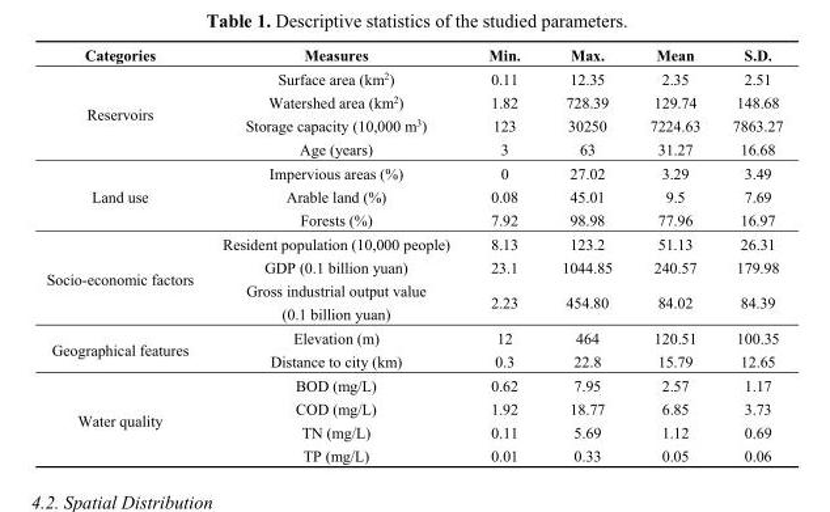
<table><thead><tr><td>Categories</td><td>Measures</td><td>Min.</td><td>Max.</td><td>Mean</td><td>S.D.</td></tr></thead><tbody><tr><td rowspan="4">Reservoirs</td><td>Surface area (km<sup>2</sup>)</td><td>0.11</td><td>12.35</td><td>2.35</td><td>2.51</td></tr><tr><td>Watershed area (km<sup>2</sup>)</td><td>1.82</td><td>728.39</td><td>129.74</td><td>148.68</td></tr><tr><td>Storage capacity (10,000 m<sup>3</sup>)</td><td>123</td><td>30250</td><td>7224.63</td><td>7863.27</td></tr><tr><td>Age (years)</td><td>3</td><td>63</td><td>31.27</td><td>16.68</td></tr><tr><td rowspan="3">Land use</td><td>Impervious areas (%)</td><td>0</td><td>27.02</td><td>3.29</td><td>3.49</td></tr><tr><td>Arable land (%)</td><td>0.08</td><td>45.01</td><td>9.5</td><td>7.69</td></tr><tr><td>Forests (%)</td><td>7.92</td><td>98.98</td><td>77.96</td><td>16.97</td></tr><tr><td rowspan="3">Socio-economic factors</td><td>Resident population (10,000 people)</td><td>8.13</td><td>123.2</td><td>51.13</td><td>26.31</td></tr><tr><td>GDP (0.1 billion yuan)</td><td>23.1</td><td>1044.85</td><td>240.57</td><td>179.98</td></tr><tr><td>Gross industrial output value (0.1 billion yuan)</td><td>2.23</td><td>454.80</td><td>84.02</td><td>84.39</td></tr><tr><td rowspan="2">Geographical features</td><td>Elevation (m)</td><td>12</td><td>464</td><td>120.51</td><td>100.35</td></tr><tr><td>Distance to city (km)</td><td>0.3</td><td>22.8</td><td>15.79</td><td>12.65</td></tr><tr><td rowspan="4">Water quality</td><td>BOD (mg/L)</td><td>0.62</td><td>7.95</td><td>2.57</td><td>1.17</td></tr><tr><td>COD (mg/L)</td><td>1.92</td><td>18.77</td><td>6.85</td><td>3.73</td></tr><tr><td>TN (mg/L)</td><td>0.11</td><td>5.69</td><td>1.12</td><td>0.69</td></tr><tr><td>TP (mg/L)</td><td>0.01</td><td>0.33</td><td>0.05</td><td>0.06</td></tr></tbody></table>